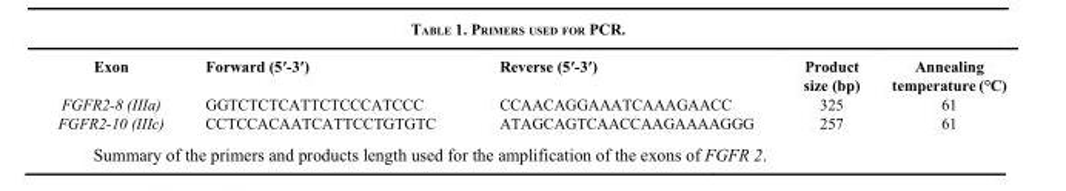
<table><thead><tr><td>Exon</td><td>Forward (5′-3′)</td><td>Reverse (5′-3′)</td><td>Product size (bp)</td><td>Annealing temperature (°C)</td></tr></thead><tbody><tr><td>FGFR2-8 (IIIa)</td><td>GGTCTCTCATTCTCCCATCCC</td><td>CCAACAGGAAATCAAAGAACC</td><td>325</td><td>61</td></tr><tr><td>FGFR2-10 (IIIc)</td><td>CCTCCACAATCATTCCTGTGTC</td><td>ATAGCAGTCAACCAAGAAAAGGG</td><td>257</td><td>61</td></tr></tbody></table>